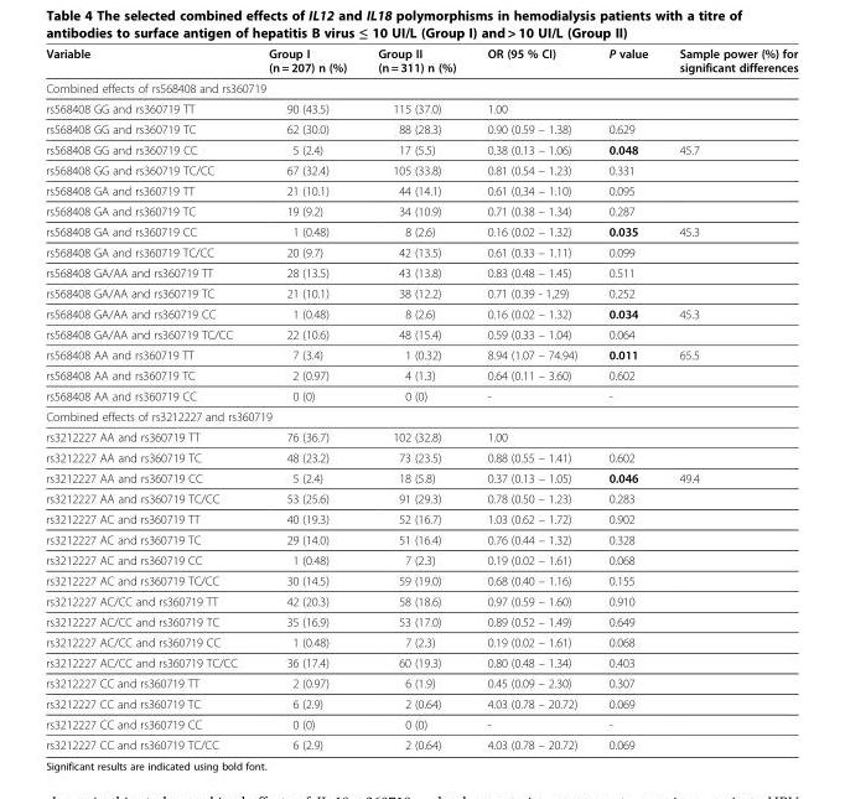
<table><thead><tr><td>Variable</td><td>Group I (n = 207) n (%)</td><td>Group II (n = 311) n (%)</td><td>OR (95 % CI)</td><td>P value</td><td>Sample power (%) for significant differences</td></tr></thead><tbody><tr><td colspan="6">Combined effects of rs568408 and rs360719</td></tr><tr><td>rs568408 GG and rs360719 TT</td><td>90 (43.5)</td><td>115 (37.0)</td><td>1.00</td><td></td><td></td></tr><tr><td>rs568408 GG and rs360719 TC</td><td>62 (30.0)</td><td>88 (28.3)</td><td>0.90 (0.59 – 1.38)</td><td>0.629</td><td></td></tr><tr><td>rs568408 GG and rs360719 CC</td><td>5 (2.4)</td><td>17 (5.5)</td><td>0.38 (0.13 – 1.06)</td><td>0.048</td><td>45.7</td></tr><tr><td>rs568408 GG and rs360719 TC/CC</td><td>67 (32.4)</td><td>105 (33.8)</td><td>0.81 (0.54 – 1.23)</td><td>0.331</td><td></td></tr><tr><td>rs568408 GA and rs360719 TT</td><td>21 (10.1)</td><td>44 (14.1)</td><td>0.61 (0,34 – 1.10)</td><td>0.095</td><td></td></tr><tr><td>rs568408 GA and rs360719 TC</td><td>19 (9.2)</td><td>34 (10.9)</td><td>0.71 (0.38 – 1.34)</td><td>0.287</td><td></td></tr><tr><td>rs568408 GA and rs360719 CC</td><td>1 (0.48)</td><td>8 (2.6)</td><td>0.16 (0.02 – 1.32)</td><td>0.035</td><td>45.3</td></tr><tr><td>rs568408 GA and rs360719 TC/CC</td><td>20 (9.7)</td><td>42 (13.5)</td><td>0.61 (0.33 – 1.11)</td><td>0.099</td><td></td></tr><tr><td>rs568408 GA/AA and rs360719 TT</td><td>28 (13.5)</td><td>43 (13.8)</td><td>0.83 (0.48 – 1.45)</td><td>0.511</td><td></td></tr><tr><td>rs568408 GA/AA and rs360719 TC</td><td>21 (10.1)</td><td>38 (12.2)</td><td>0.71 (0.39 - 1,29)</td><td>0.252</td><td></td></tr><tr><td>rs568408 GA/AA and rs360719 CC</td><td>1 (0.48)</td><td>8 (2.6)</td><td>0.16 (0.02 – 1.32)</td><td>0.034</td><td>45.3</td></tr><tr><td>rs568408 GA/AA and rs360719 TC/CC</td><td>22 (10.6)</td><td>48 (15.4)</td><td>0.59 (0.33 – 1.04)</td><td>0.064</td><td></td></tr><tr><td>rs568408 AA and rs360719 TT</td><td>7 (3.4)</td><td>1 (0.32)</td><td>8.94 (1.07 – 74.94)</td><td>0.011</td><td>65.5</td></tr><tr><td>rs568408 AA and rs360719 TC</td><td>2 (0.97)</td><td>4 (1.3)</td><td>0.64 (0.11 – 3.60)</td><td>0.602</td><td></td></tr><tr><td>rs568408 AA and rs360719 CC</td><td>0 (0)</td><td>0 (0)</td><td>-</td><td>-</td><td></td></tr><tr><td colspan="6">Combined effects of rs3212227 and rs360719</td></tr><tr><td>rs3212227 AA and rs360719 TT</td><td>76 (36.7)</td><td>102 (32.8)</td><td>1.00</td><td></td><td></td></tr><tr><td>rs3212227 AA and rs360719 TC</td><td>48 (23.2)</td><td>73 (23.5)</td><td>0.88 (0.55 – 1.41)</td><td>0.602</td><td></td></tr><tr><td>rs3212227 AA and rs360719 CC</td><td>5 (2.4)</td><td>18 (5.8)</td><td>0.37 (0.13 – 1.05)</td><td>0.046</td><td>49.4</td></tr><tr><td>rs3212227 AA and rs360719 TC/CC</td><td>53 (25.6)</td><td>91 (29.3)</td><td>0.78 (0.50 – 1.23)</td><td>0.283</td><td></td></tr><tr><td>rs3212227 AC and rs360719 TT</td><td>40 (19.3)</td><td>52 (16.7)</td><td>1.03 (0.62 – 1.72)</td><td>0.902</td><td></td></tr><tr><td>rs3212227 AC and rs360719 TC</td><td>29 (14.0)</td><td>51 (16.4)</td><td>0.76 (0.44 – 1.32)</td><td>0.328</td><td></td></tr><tr><td>rs3212227 AC and rs360719 CC</td><td>1 (0.48)</td><td>7 (2.3)</td><td>0.19 (0.02 – 1.61)</td><td>0.068</td><td></td></tr><tr><td>rs3212227 AC and rs360719 TC/CC</td><td>30 (14.5)</td><td>59 (19.0)</td><td>0.68 (0.40 – 1.16)</td><td>0.155</td><td></td></tr><tr><td>rs3212227 AC/CC and rs360719 TT</td><td>42 (20.3)</td><td>58 (18.6)</td><td>0.97 (0.59 – 1.60)</td><td>0.910</td><td></td></tr><tr><td>rs3212227 AC/CC and rs360719 TC</td><td>35 (16.9)</td><td>53 (17.0)</td><td>0.89 (0.52 – 1.49)</td><td>0.649</td><td></td></tr><tr><td>rs3212227 AC/CC and rs360719 CC</td><td>1 (0.48)</td><td>7 (2.3)</td><td>0.19 (0.02 – 1.61)</td><td>0.068</td><td></td></tr><tr><td>rs3212227 AC/CC and rs360719 TC/CC</td><td>36 (17.4)</td><td>60 (19.3)</td><td>0.80 (0.48 – 1.34)</td><td>0.403</td><td></td></tr><tr><td>rs3212227 CC and rs360719 TT</td><td>2 (0.97)</td><td>6 (1.9)</td><td>0.45 (0.09 – 2.30)</td><td>0.307</td><td></td></tr><tr><td>rs3212227 CC and rs360719 TC</td><td>6 (2.9)</td><td>2 (0.64)</td><td>4.03 (0.78 – 20.72)</td><td>0.069</td><td></td></tr><tr><td>rs3212227 CC and rs360719 CC</td><td>0 (0)</td><td>0 (0)</td><td>-</td><td>-</td><td></td></tr><tr><td>rs3212227 CC and rs360719 TC/CC</td><td>6 (2.9)</td><td>2 (0.64)</td><td>4.03 (0.78 – 20.72)</td><td>0.069</td><td></td></tr></tbody></table>